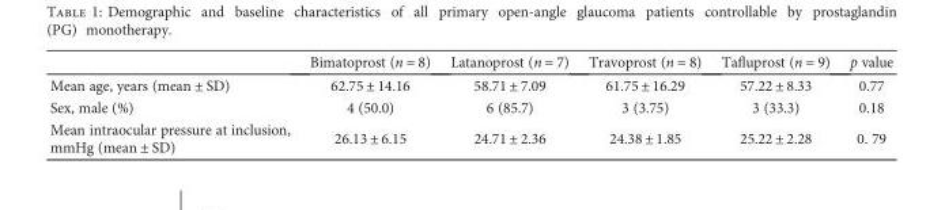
<table><thead><tr><td></td><td>Bimatoprost (n = 8)</td><td>Latanoprost (n = 7)</td><td>Travoprost (n = 8)</td><td>Tafluprost (n = 9)</td><td>p value</td></tr></thead><tbody><tr><td>Mean age, years (mean ± SD)</td><td>62.75 ± 14.16</td><td>58.71 ± 7.09</td><td>61.75 ± 16.29</td><td>57.22 ± 8.33</td><td>0.77</td></tr><tr><td>Sex, male (%)</td><td>4 (50.0)</td><td>6 (85.7)</td><td>3 (3.75)</td><td>3 (33.3)</td><td>0.18</td></tr><tr><td>Mean intraocular pressure at inclusion, mmHg (mean ± SD)</td><td>26.13 ± 6.15</td><td>24.71 ± 2.36</td><td>24.38 ± 1.85</td><td>25.22 ± 2.28</td><td>0. 79</td></tr></tbody></table>